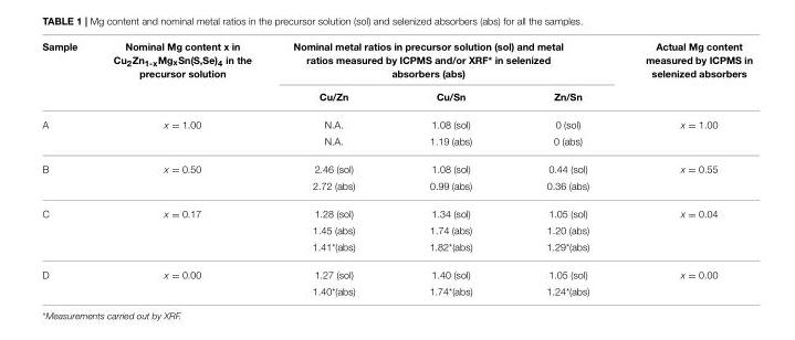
<table><thead><tr><td rowspan="2">Sample</td><td rowspan="2">Nominal Mg content x in Cu<sub>2</sub>Zn<sub>1-x</sub>Mg<sub>x</sub>Sn(S,Se)<sub>4</sub> in the precursor solution</td><td colspan="3">Nominal metal ratios in precursor solution (sol) and metal ratios measured by ICPMS and/or XRF* in selenized absorbers (abs)</td><td rowspan="2">Actual Mg content measured by ICPMS in selenized absorbers</td></tr><tr><td>Cu/Zn</td><td>Cu/Sn</td><td>Zn/Sn</td></tr></thead><tbody><tr><td rowspan="2">A</td><td>x = 1.00</td><td>N.A.</td><td>1.08 (sol)</td><td>0 (sol)</td><td>x = 1.00</td></tr><tr><td></td><td>N.A.</td><td>1.19 (abs)</td><td>0 (abs)</td><td></td></tr><tr><td rowspan="2">B</td><td>x = 0.50</td><td>2.46 (sol)</td><td>1.08 (sol)</td><td>0.44 (sol)</td><td>x = 0.55</td></tr><tr><td></td><td>2.72 (abs)</td><td>0.99 (abs)</td><td>0.36 (abs)</td><td></td></tr><tr><td rowspan="3">C</td><td>x = 0.17</td><td>1.28 (sol)</td><td>1.34 (sol)</td><td>1.05 (sol)</td><td>x = 0.04</td></tr><tr><td></td><td>1.45 (abs)</td><td>1.74 (abs)</td><td>1.20 (abs)</td><td></td></tr><tr><td></td><td>1.41*(abs)</td><td>1.82*(abs)</td><td>1.29*(abs)</td><td></td></tr><tr><td rowspan="2">D</td><td>x = 0.00</td><td>1.27 (sol)</td><td>1.40 (sol)</td><td>1.05 (sol)</td><td>x = 0.00</td></tr><tr><td></td><td>1.40*(abs)</td><td>1.74*(abs)</td><td>1.24*(abs)</td><td></td></tr></tbody></table>